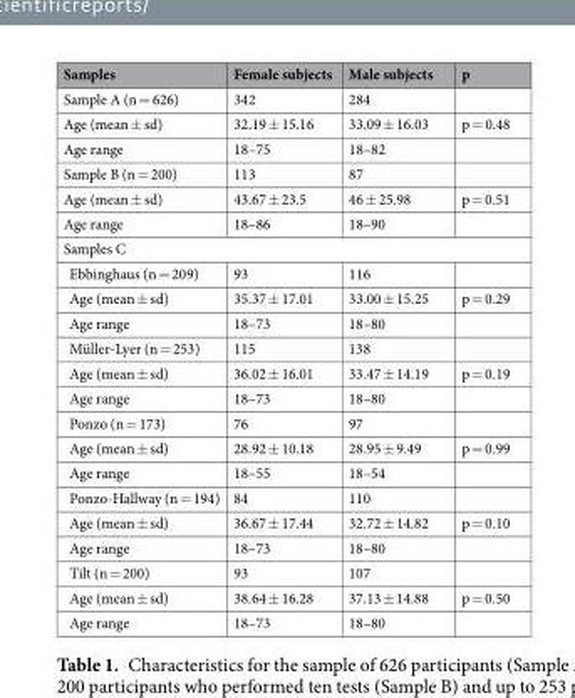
<table><thead><tr><td>Samples</td><td>Female subjects</td><td>Male subjects</td><td>p</td></tr></thead><tbody><tr><td>Sample A (n = 626)</td><td>342</td><td>284</td><td></td></tr><tr><td>Age (mean ± sd)</td><td>32.19 ± 15.16</td><td>33.09 ± 16.03</td><td>p = 0.48</td></tr><tr><td>Age range</td><td>18–75</td><td>18–82</td><td></td></tr><tr><td>Sample B (n = 200)</td><td>113</td><td>87</td><td></td></tr><tr><td>Age (mean ± sd)</td><td>43.67 ± 23.5</td><td>46 ± 25.98</td><td>p = 0.51</td></tr><tr><td>Age range</td><td>18–86</td><td>18–90</td><td></td></tr><tr><td colspan="4">Samples C</td></tr><tr><td>Ebbinghaus (n = 209)</td><td>93</td><td>116</td><td></td></tr><tr><td>Age (mean ± sd)</td><td>35.37 ± 17.01</td><td>33.00 ± 15.25</td><td>p = 0.29</td></tr><tr><td>Age range</td><td>18–73</td><td>18–80</td><td></td></tr><tr><td>Müller-Lyer (n = 253)</td><td>115</td><td>138</td><td></td></tr><tr><td>Age (mean ± sd)</td><td>36.02 ± 16.01</td><td>33.47 ± 14.19</td><td>p = 0.19</td></tr><tr><td>Age range</td><td>18–73</td><td>18–80</td><td></td></tr><tr><td>Ponzo (n = 173)</td><td>76</td><td>97</td><td></td></tr><tr><td>Age (mean ± sd)</td><td>28.92 ± 10.18</td><td>28.95 ± 9.49</td><td>p = 0.99</td></tr><tr><td>Age range</td><td>18–55</td><td>18–54</td><td></td></tr><tr><td>Ponzo-Hallway (n = 194)</td><td>84</td><td>110</td><td></td></tr><tr><td>Age (mean ± sd)</td><td>36.67 ± 17.44</td><td>32.72 ± 14.82</td><td>p = 0.10</td></tr><tr><td>Age range</td><td>18–73</td><td>18–80</td><td></td></tr><tr><td>Tilt (n = 200)</td><td>93</td><td>107</td><td></td></tr><tr><td>Age (mean ± sd)</td><td>38.64 ± 16.28</td><td>37.13 ± 14.88</td><td>p = 0.50</td></tr><tr><td>Age range</td><td>18–73</td><td>18–80</td><td></td></tr></tbody></table>